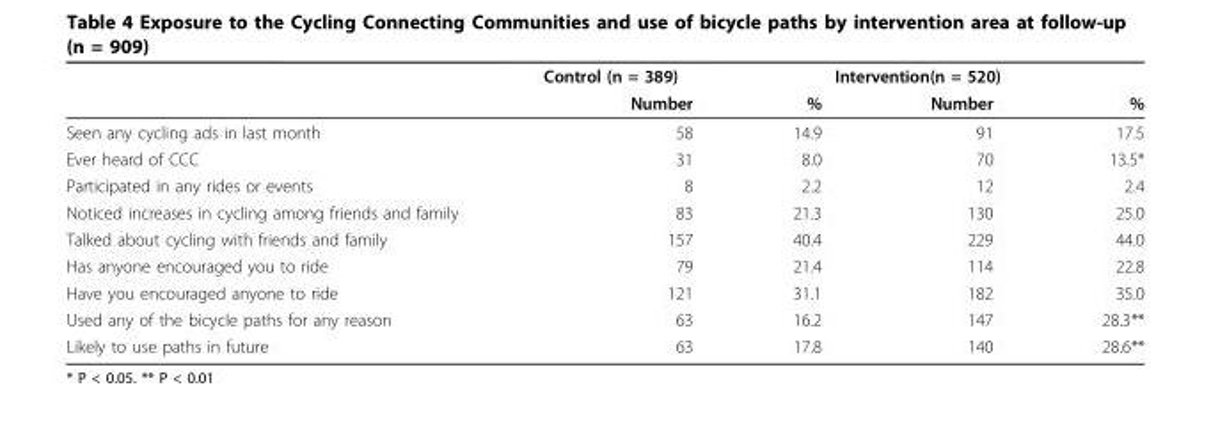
<table><thead><tr><td rowspan="2"></td><td colspan="2">Control (n = 389)</td><td colspan="2">Intervention(n = 520)</td></tr><tr><td>Number</td><td>%</td><td>Number</td><td>%</td></tr></thead><tbody><tr><td>Seen any cycling ads in last month</td><td>58</td><td>14.9</td><td>91</td><td>17.5</td></tr><tr><td>Ever heard of CCC</td><td>31</td><td>8.0</td><td>70</td><td>13.5*</td></tr><tr><td>Participated in any rides or events</td><td>8</td><td>2.2</td><td>12</td><td>2.4</td></tr><tr><td>Noticed increases in cycling among friends and family</td><td>83</td><td>21.3</td><td>130</td><td>25.0</td></tr><tr><td>Talked about cycling with friends and family</td><td>157</td><td>40.4</td><td>229</td><td>44.0</td></tr><tr><td>Has anyone encouraged you to ride</td><td>79</td><td>21.4</td><td>114</td><td>22.8</td></tr><tr><td>Have you encouraged anyone to ride</td><td>121</td><td>31.1</td><td>182</td><td>35.0</td></tr><tr><td>Used any of the bicycle paths for any reason</td><td>63</td><td>16.2</td><td>147</td><td>28.3**</td></tr><tr><td>Likely to use paths in future</td><td>63</td><td>17.8</td><td>140</td><td>28.6**</td></tr></tbody></table>